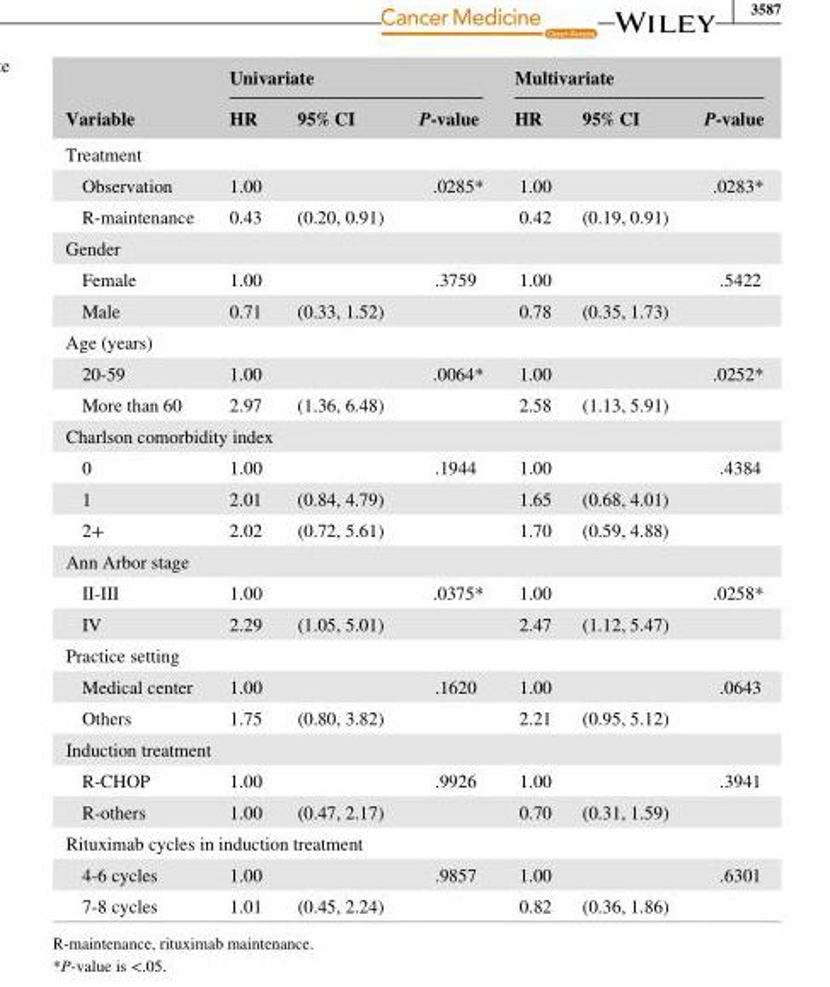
<table><thead><tr><td rowspan="2">Variable</td><td colspan="3">Univariate</td><td colspan="3">Multivariate</td></tr><tr><td>HR</td><td>95% CI</td><td>P- value</td><td>HR</td><td>95% CI</td><td>P- value</td></tr></thead><tbody><tr><td colspan="7">Treatment</td></tr><tr><td>Observation</td><td>1.00</td><td></td><td>.0285*</td><td>1.00</td><td></td><td>.0283*</td></tr><tr><td>R- maintenance</td><td>0.43</td><td>(0.20, 0.91)</td><td></td><td>0.42</td><td>(0.19, 0.91)</td><td></td></tr><tr><td colspan="7">Gender</td></tr><tr><td>Female</td><td>1.00</td><td></td><td>.3759</td><td>1.00</td><td></td><td>.5422</td></tr><tr><td>Male</td><td>0.71</td><td>(0.33, 1.52)</td><td></td><td>0.78</td><td>(0.35, 1.73)</td><td></td></tr><tr><td colspan="7">Age (years)</td></tr><tr><td>20- 59</td><td>1.00</td><td></td><td>.0064*</td><td>1.00</td><td></td><td>.0252*</td></tr><tr><td>More than 60</td><td>2.97</td><td>(1.36, 6.48)</td><td></td><td>2.58</td><td>(1.13, 5.91)</td><td></td></tr><tr><td colspan="7">Charlson comorbidity index</td></tr><tr><td>0</td><td>1.00</td><td></td><td>.1944</td><td>1.00</td><td></td><td>.4384</td></tr><tr><td>1</td><td>2.01</td><td>(0.84, 4.79)</td><td></td><td>1.65</td><td>(0.68, 4.01)</td><td></td></tr><tr><td>2+</td><td>2.02</td><td>(0.72, 5.61)</td><td></td><td>1.70</td><td>(0.59, 4.88)</td><td></td></tr><tr><td colspan="7">Ann Arbor stage</td></tr><tr><td>II- III</td><td>1.00</td><td></td><td>.0375*</td><td>1.00</td><td></td><td>.0258*</td></tr><tr><td>IV</td><td>2.29</td><td>(1.05, 5.01)</td><td></td><td>2.47</td><td>(1.12, 5.47)</td><td></td></tr><tr><td colspan="7">Practice setting</td></tr><tr><td>Medical center</td><td>1.00</td><td></td><td>.1620</td><td>1.00</td><td></td><td>.0643</td></tr><tr><td>Others</td><td>1.75</td><td>(0.80, 3.82)</td><td></td><td>2.21</td><td>(0.95, 5.12)</td><td></td></tr><tr><td colspan="7">Induction treatment</td></tr><tr><td>R- CHOP</td><td>1.00</td><td></td><td>.9926</td><td>1.00</td><td></td><td>.3941</td></tr><tr><td>R- others</td><td>1.00</td><td>(0.47, 2.17)</td><td></td><td>0.70</td><td>(0.31, 1.59)</td><td></td></tr><tr><td colspan="7">Rituximab cycles in induction treatment</td></tr><tr><td>4- 6 cycles</td><td>1.00</td><td></td><td>.9857</td><td>1.00</td><td></td><td>.6301</td></tr><tr><td>7- 8 cycles</td><td>1.01</td><td>(0.45, 2.24)</td><td></td><td>0.82</td><td>(0.36, 1.86)</td><td></td></tr></tbody></table>